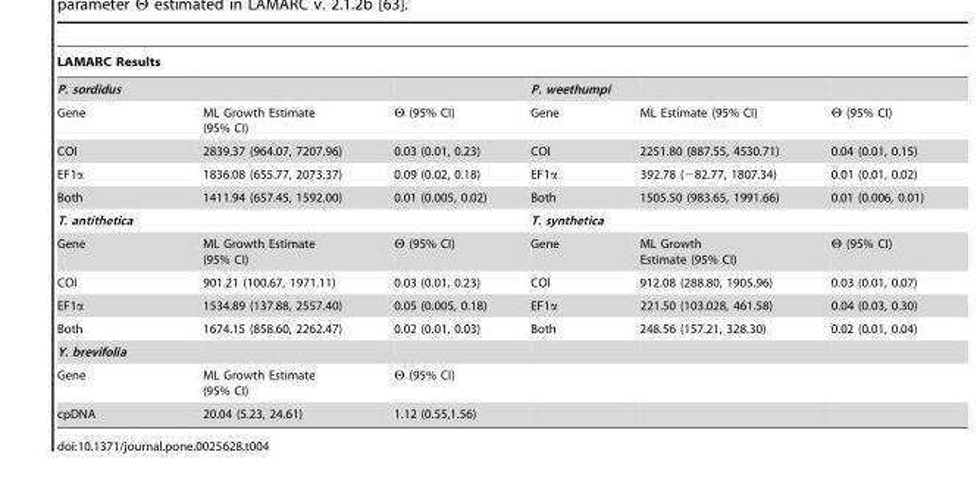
<table><thead><tr><td>LAMARC Results</td><td></td><td></td><td></td><td></td><td></td></tr></thead><tbody><tr><td>P. sordidus</td><td></td><td></td><td>P. weethumpi</td><td></td><td></td></tr><tr><td>Gene</td><td>ML Growth Estimate (95% CI)</td><td>Θ (95% CI)</td><td>Gene</td><td>ML Estimate (95% CI)</td><td>Θ (95% CI)</td></tr><tr><td>COI</td><td>2839.37 (964.07, 7207.96)</td><td>0.03 (0.01, 0.23)</td><td>COI</td><td>2251.80 (887.55, 4530.71)</td><td>0.04 (0.01, 0.15)</td></tr><tr><td>EF1α</td><td>1836.08 (655.77, 2073.37)</td><td>0.09 (0.02, 0.18)</td><td>EF1α</td><td>392.78 (−82.77, 1807.34)</td><td>0.01 (0.01, 0.02)</td></tr><tr><td>Both</td><td>1411.94 (657.45, 1592.00)</td><td>0.01 (0.005, 0.02)</td><td>Both</td><td>1505.50 (983.65, 1991.66)</td><td>0.01 (0.006, 0.01)</td></tr><tr><td>T. antithetica</td><td></td><td></td><td>T. synthetica</td><td></td><td></td></tr><tr><td>Gene</td><td>ML Growth Estimate (95% CI)</td><td>Θ (95% CI)</td><td>Gene</td><td>ML Growth Estimate (95% CI)</td><td>Θ (95% CI)</td></tr><tr><td>COI</td><td>901.21 (100.67, 1971.11)</td><td>0.03 (0.01, 0.23)</td><td>COI</td><td>912.08 (288.80, 1905.96)</td><td>0.03 (0.01, 0.07)</td></tr><tr><td>EF1α</td><td>1534.89 (137.88, 2557.40)</td><td>0.05 (0.005, 0.18)</td><td>EF1α</td><td>221.50 (103.028, 461.58)</td><td>0.04 (0.03, 0.30)</td></tr><tr><td>Both</td><td>1674.15 (858.60, 2262.47)</td><td>0.02 (0.01, 0.03)</td><td>Both</td><td>248.56 (157.21, 328.30)</td><td>0.02 (0.01, 0.04)</td></tr><tr><td colspan="6">Y. brevifolia</td></tr><tr><td>Gene</td><td>ML Growth Estimate (95% CI)</td><td>Θ (95% CI)</td><td></td><td></td><td></td></tr><tr><td>cpDNA</td><td>20.04 (5.23, 24.61)</td><td>1.12 (0.55,1.56)</td><td></td><td></td><td></td></tr></tbody></table>